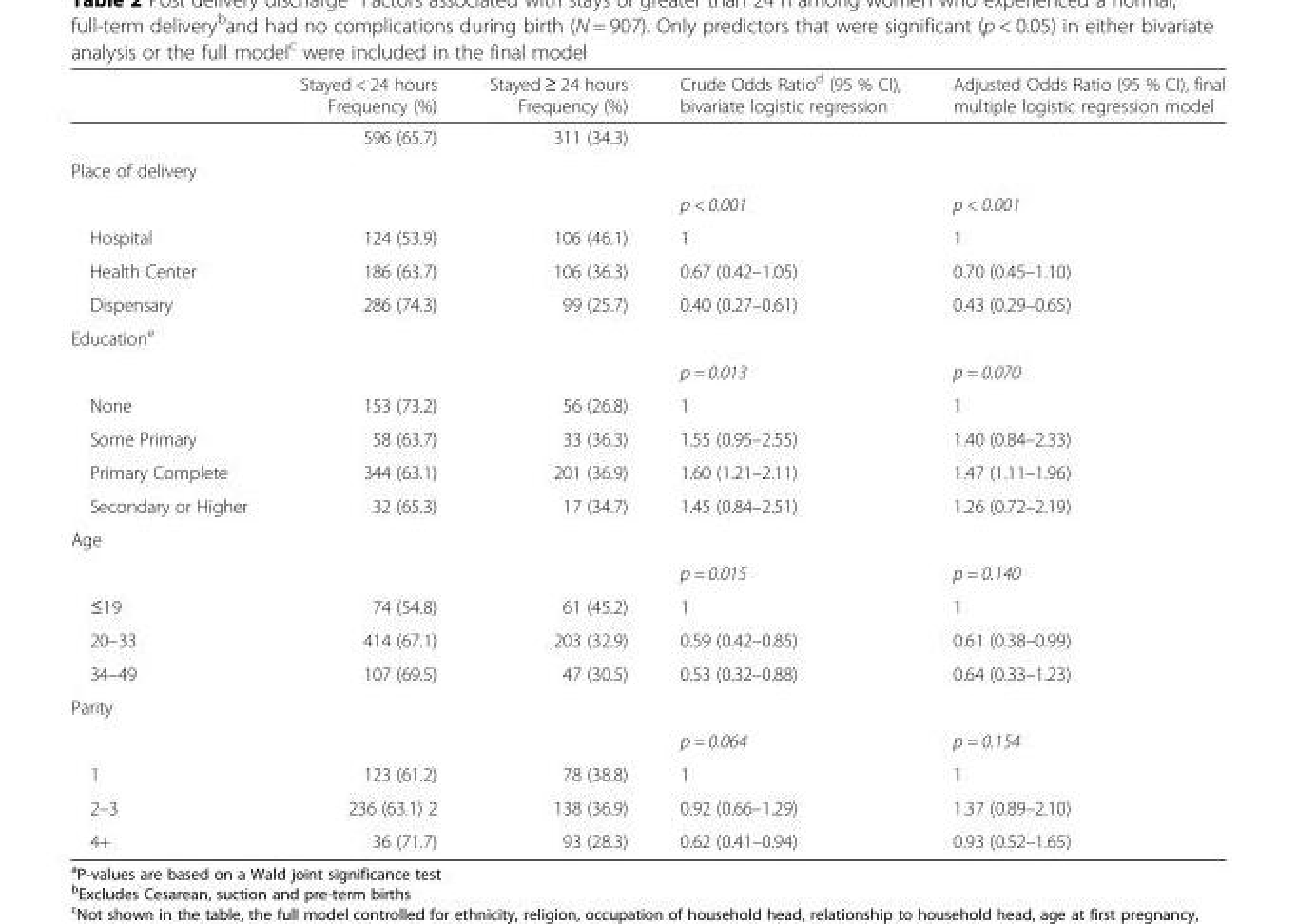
<table><thead><tr><td></td><td>Stayed &lt; 24 hours Frequency (%)</td><td>Stayed ≥ 24 hours Frequency (%)</td><td>Crude Odds Ratio<sup>d</sup> (95 % CI), bivariate logistic regression</td><td>Adjusted Odds Ratio (95 % CI), final multiple logistic regression model</td></tr></thead><tbody><tr><td></td><td>596 (65.7)</td><td>311 (34.3)</td><td></td><td></td></tr><tr><td colspan="5">Place of delivery</td></tr><tr><td colspan="3"></td><td>p &lt; 0.001</td><td>p &lt; 0.001</td></tr><tr><td>Hospital</td><td>124 (53.9)</td><td>106 (46.1)</td><td>1</td><td>1</td></tr><tr><td>Health Center</td><td>186 (63.7)</td><td>106 (36.3)</td><td>0.67 (0.42–1.05)</td><td>0.70 (0.45–1.10)</td></tr><tr><td>Dispensary</td><td>286 (74.3)</td><td>99 (25.7)</td><td>0.40 (0.27–0.61)</td><td>0.43 (0.29–0.65)</td></tr><tr><td colspan="5">Education<sup>e</sup></td></tr><tr><td colspan="3"></td><td>p = 0.013</td><td>p = 0.070</td></tr><tr><td>None</td><td>153 (73.2)</td><td>56 (26.8)</td><td>1</td><td>1</td></tr><tr><td>Some Primary</td><td>58 (63.7)</td><td>33 (36.3)</td><td>1.55 (0.95–2.55)</td><td>1.40 (0.84–2.33)</td></tr><tr><td>Primary Complete</td><td>344 (63.1)</td><td>201 (36.9)</td><td>1.60 (1.21–2.11)</td><td>1.47 (1.11–1.96)</td></tr><tr><td>Secondary or Higher</td><td>32 (65.3)</td><td>17 (34.7)</td><td>1.45 (0.84–2.51)</td><td>1.26 (0.72–2.19)</td></tr><tr><td colspan="5">Age</td></tr><tr><td colspan="3"></td><td>p = 0.015</td><td>p = 0.140</td></tr><tr><td>≤19</td><td>74 (54.8)</td><td>61 (45.2)</td><td>1</td><td>1</td></tr><tr><td>20–33</td><td>414 (67.1)</td><td>203 (32.9)</td><td>0.59 (0.42–0.85)</td><td>0.61 (0.38–0.99)</td></tr><tr><td>34–49</td><td>107 (69.5)</td><td>47 (30.5)</td><td>0.53 (0.32–0.88)</td><td>0.64 (0.33–1.23)</td></tr><tr><td colspan="5">Parity</td></tr><tr><td colspan="3"></td><td>p = 0.064</td><td>p = 0.154</td></tr><tr><td>1</td><td>123 (61.2)</td><td>78 (38.8)</td><td>1</td><td>1</td></tr><tr><td>2–3</td><td>236 (63.1) 2</td><td>138 (36.9)</td><td>0.92 (0.66–1.29)</td><td>1.37 (0.89–2.10)</td></tr><tr><td>4+</td><td>36 (71.7)</td><td>93 (28.3)</td><td>0.62 (0.41–0.94)</td><td>0.93 (0.52–1.65)</td></tr></tbody></table>